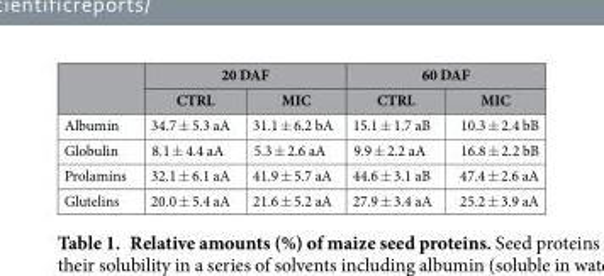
<table><thead><tr><td rowspan="2"></td><td colspan="2">20 DAF</td><td colspan="2">60 DAF</td></tr><tr><td>CTRL</td><td>MIC</td><td>CTRL</td><td>MIC</td></tr></thead><tbody><tr><td>Albumin</td><td>34.7 ± 5.3 aA</td><td>31.1 ± 6.2 bA</td><td>15.1 ± 1.7 aB</td><td>10.3 ± 2.4 bB</td></tr><tr><td>Globulin</td><td>8.1 ± 4.4 aA</td><td>5.3 ± 2.6 aA</td><td>9.9 ± 2.2 aA</td><td>16.8 ± 2.2 bB</td></tr><tr><td>Prolamins</td><td>32.1 ± 6.1 aA</td><td>41.9 ± 5.7 aA</td><td>44.6 ± 3.1 aB</td><td>47.4 ± 2.6 aA</td></tr><tr><td>Glutelins</td><td>20.0 ± 5.4 aA</td><td>21.6 ± 5.2 aA</td><td>27.9 ± 3.4 aA</td><td>25.2 ± 3.9 aA</td></tr></tbody></table>